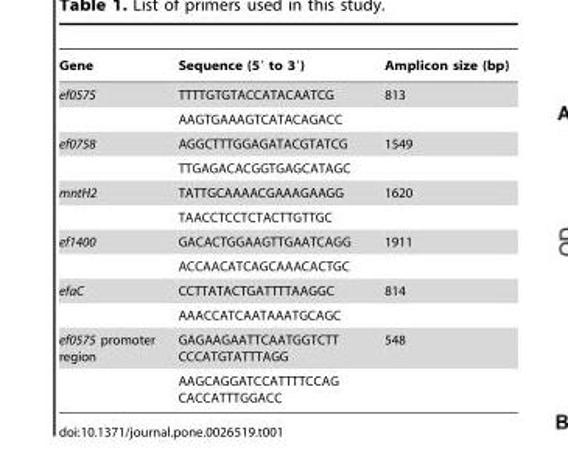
<table><thead><tr><td>Gene</td><td>Sequence (5′ to 3′)</td><td>Amplicon size (bp)</td></tr></thead><tbody><tr><td rowspan="2">ef0575</td><td>TTTTGTGTACCATACAATCG</td><td>813</td></tr><tr><td>AAGTGAAAGTCATACAGACC</td><td></td></tr><tr><td rowspan="2">ef0758</td><td>AGGCTTTGGAGATACGTATCG</td><td>1549</td></tr><tr><td>TTGAGACACGGTGAGCATAGC</td><td></td></tr><tr><td rowspan="2">mntH2</td><td>TATTGCAAAACGAAAGAAGG</td><td>1620</td></tr><tr><td>TAACCTCCTCTACTTGTTGC</td><td></td></tr><tr><td rowspan="2">ef1400</td><td>GACACTGGAAGTTGAATCAGG</td><td>1911</td></tr><tr><td>ACCAACATCAGCAAACACTGC</td><td></td></tr><tr><td rowspan="2">efaC</td><td>CCTTATACTGATTTTAAGGC</td><td>814</td></tr><tr><td>AAACCATCAATAAATGCAGC</td><td></td></tr><tr><td rowspan="2">ef0575 promoter region</td><td>GAGAAGAATTCAATGGTCTT CCCATGTATTTAGG</td><td>548</td></tr><tr><td>AAGCAGGATCCATTTTCCAG CACCATTTGGACC</td><td></td></tr></tbody></table>